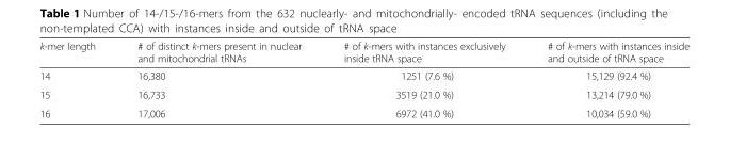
<table><thead><tr><td>k-mer length</td><td># of distinct k-mers present in nuclear and mitochondrial tRNAs</td><td># of k-mers with instances exclusively inside tRNA space</td><td># of k-mers with instances inside and outside of tRNA space</td></tr></thead><tbody><tr><td>14</td><td>16,380</td><td>1251 (7.6 %)</td><td>15,129 (92.4 %)</td></tr><tr><td>15</td><td>16,733</td><td>3519 (21.0 %)</td><td>13,214 (79.0 %)</td></tr><tr><td>16</td><td>17,006</td><td>6972 (41.0 %)</td><td>10,034 (59.0 %)</td></tr></tbody></table>